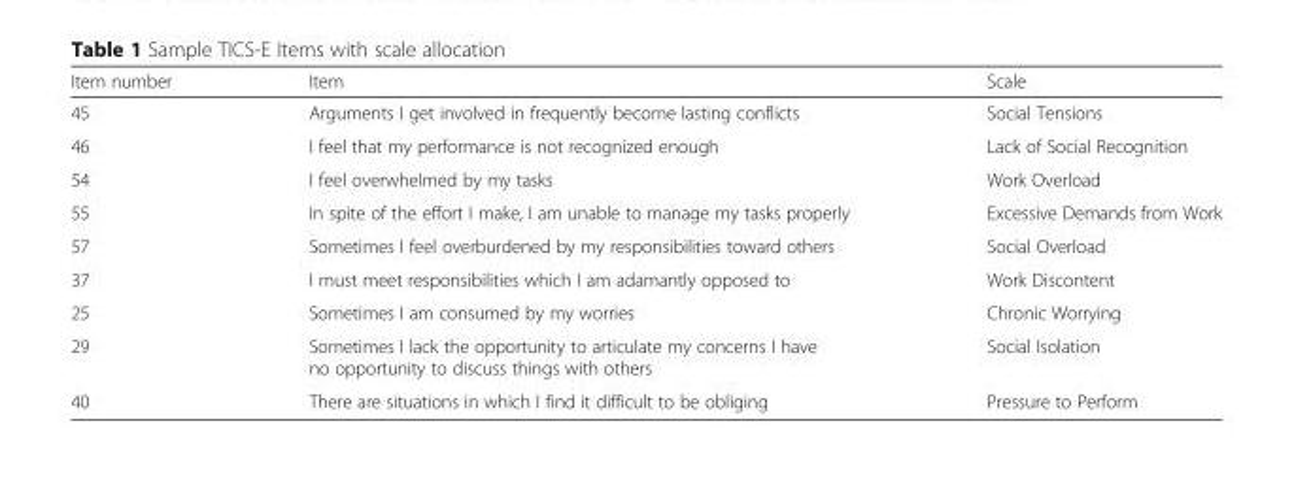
<table><thead><tr><td>Item number</td><td>Item</td><td>Scale</td></tr></thead><tbody><tr><td>45</td><td>Arguments I get involved in frequently become lasting conflicts</td><td>Social Tensions</td></tr><tr><td>46</td><td>I feel that my performance is not recognized enough</td><td>Lack of Social Recognition</td></tr><tr><td>54</td><td>I feel overwhelmed by my tasks</td><td>Work Overload</td></tr><tr><td>55</td><td>In spite of the effort I make, I am unable to manage my tasks properly</td><td>Excessive Demands from Work</td></tr><tr><td>57</td><td>Sometimes I feel overburdened by my responsibilities toward others</td><td>Social Overload</td></tr><tr><td>37</td><td>I must meet responsibilities which I am adamantly opposed to</td><td>Work Discontent</td></tr><tr><td>25</td><td>Sometimes I am consumed by my worries</td><td>Chronic Worrying</td></tr><tr><td>29</td><td>Sometimes I lack the opportunity to articulate my concerns I have no opportunity to discuss things with others</td><td>Social Isolation</td></tr><tr><td>40</td><td>There are situations in which I find it difficult to be obliging</td><td>Pressure to Perform</td></tr></tbody></table>